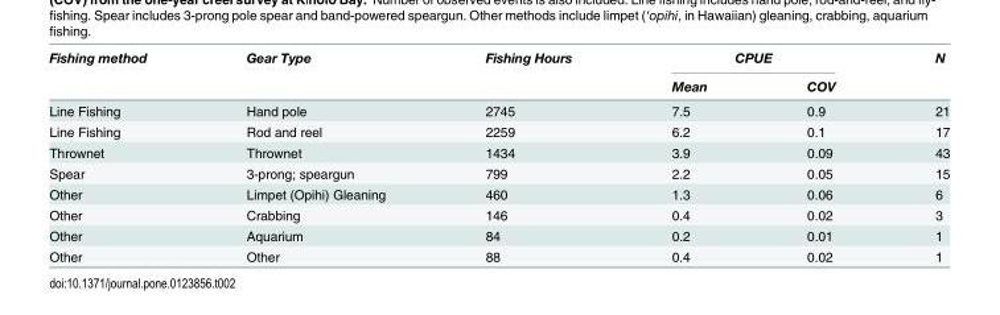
<table><thead><tr><td rowspan="2">Fishing method</td><td rowspan="2">Gear Type</td><td rowspan="2">Fishing Hours</td><td colspan="2">CPUE</td><td rowspan="2">N</td></tr><tr><td>Mean</td><td>COV</td></tr></thead><tbody><tr><td>Line Fishing</td><td>Hand pole</td><td>2745</td><td>7.5</td><td>0.9</td><td>21</td></tr><tr><td>Line Fishing</td><td>Rod and reel</td><td>2259</td><td>6.2</td><td>0.1</td><td>17</td></tr><tr><td>Thrownet</td><td>Thrownet</td><td>1434</td><td>3.9</td><td>0.09</td><td>43</td></tr><tr><td>Spear</td><td>3-prong; speargun</td><td>799</td><td>2.2</td><td>0.05</td><td>15</td></tr><tr><td>Other</td><td>Limpet (Opihi) Gleaning</td><td>460</td><td>1.3</td><td>0.06</td><td>6</td></tr><tr><td>Other</td><td>Crabbing</td><td>146</td><td>0.4</td><td>0.02</td><td>3</td></tr><tr><td>Other</td><td>Aquarium</td><td>84</td><td>0.2</td><td>0.01</td><td>1</td></tr><tr><td>Other</td><td>Other</td><td>88</td><td>0.4</td><td>0.02</td><td>1</td></tr></tbody></table>